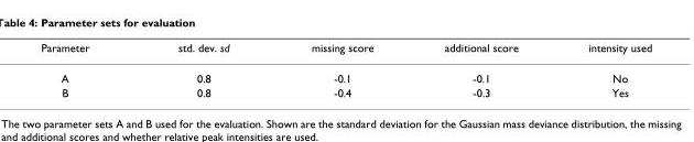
<table><thead><tr><td>Parameter</td><td>std. dev. sd</td><td>missing score</td><td>additional score</td><td>intensity used</td></tr></thead><tbody><tr><td>A</td><td>0.8</td><td>-0.1</td><td>-0.1</td><td>No</td></tr><tr><td>B</td><td>0.8</td><td>-0.4</td><td>-0.3</td><td>Yes</td></tr></tbody></table>